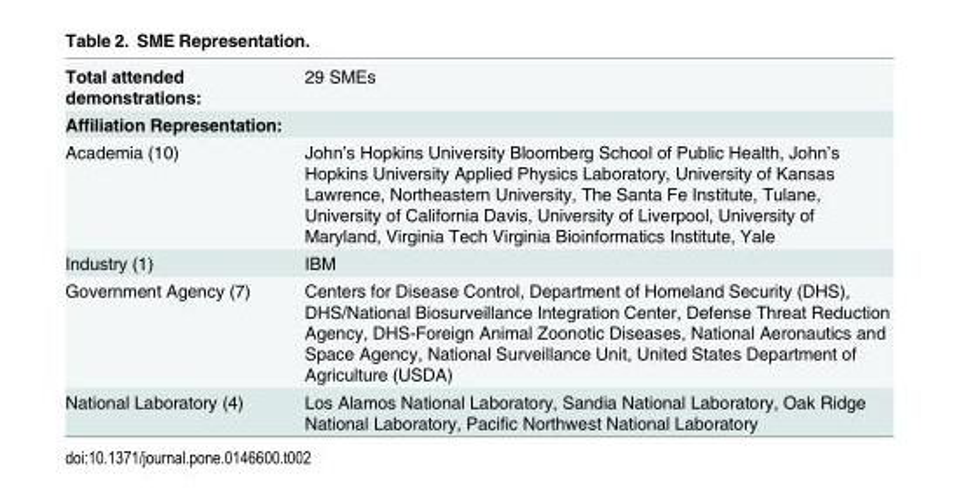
<table><tbody><tr><td>Total attended demonstrations:</td><td>29 SMEs</td></tr><tr><td colspan="2">Affiliation Representation:</td></tr><tr><td>Academia (10)</td><td>John’s Hopkins University Bloomberg School of Public Health, John’s Hopkins University Applied Physics Laboratory, University of Kansas Lawrence, Northeastern University, The Santa Fe Institute, Tulane, University of California Davis, University of Liverpool, University of Maryland, Virginia Tech Virginia Bioinformatics Institute, Yale</td></tr><tr><td>Industry (1)</td><td>IBM</td></tr><tr><td>Government Agency (7)</td><td>Centers for Disease Control, Department of Homeland Security (DHS), DHS/National Biosurveillance Integration Center, Defense Threat Reduction Agency, DHS-Foreign Animal Zoonotic Diseases, National Aeronautics and Space Agency, National Surveillance Unit, United States Department of Agriculture (USDA)</td></tr><tr><td>National Laboratory (4)</td><td>Los Alamos National Laboratory, Sandia National Laboratory, Oak Ridge National Laboratory, Pacific Northwest National Laboratory</td></tr></tbody></table>